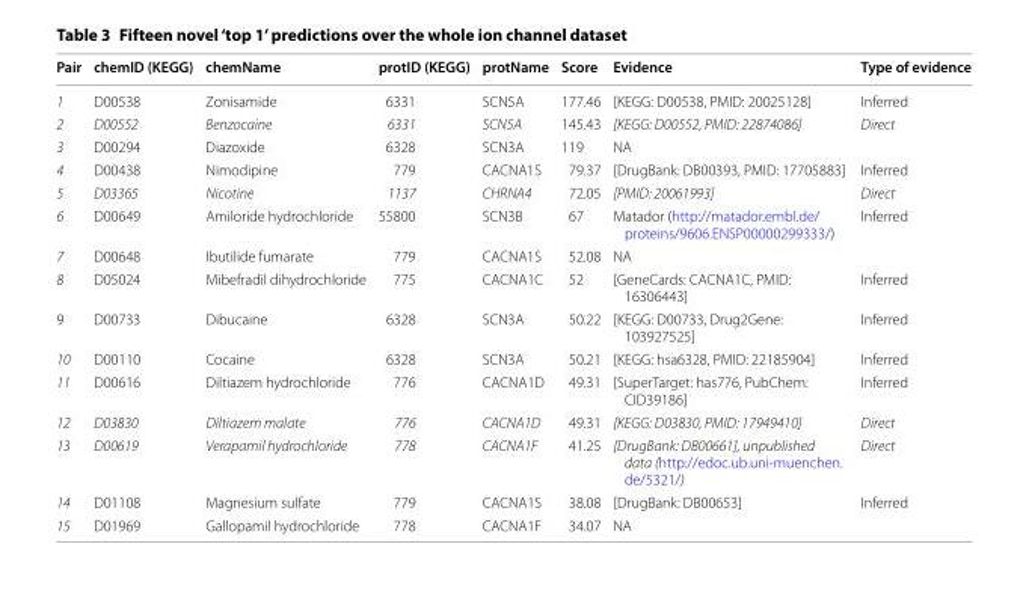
<table><thead><tr><td>Pair</td><td>chemID (KEGG)</td><td>chemName</td><td>protID (KEGG)</td><td>protName</td><td>Score</td><td>Evidence</td><td>Type of evidence</td></tr></thead><tbody><tr><td>1</td><td>D00538</td><td>Zonisamide</td><td>6331</td><td>SCN5A</td><td>177.46</td><td>[KEGG: D00538, PMID: 20025128]</td><td>Inferred</td></tr><tr><td>2</td><td>D00552</td><td>Benzocaine</td><td>6331</td><td>SCN5A</td><td>145.43</td><td>[KEGG: D00552, PMID: 22874086]</td><td>Direct</td></tr><tr><td>3</td><td>D00294</td><td>Diazoxide</td><td>6328</td><td>SCN3A</td><td>119</td><td>NA</td><td></td></tr><tr><td>4</td><td>D00438</td><td>Nimodipine</td><td>779</td><td>CACNA1S</td><td>79.37</td><td>[DrugBank: DB00393, PMID: 17705883]</td><td>Inferred</td></tr><tr><td>5</td><td>D03365</td><td>Nicotine</td><td>1137</td><td>CHRNA4</td><td>72.05</td><td>[PMID: 20061993]</td><td>Direct</td></tr><tr><td>6</td><td>D00649</td><td>Amiloride hydrochloride</td><td>55800</td><td>SCN3B</td><td>67</td><td>Matador (http://matador.embl.de/ proteins/9606.ENSP00000299333/)</td><td>Inferred</td></tr><tr><td>7</td><td>D00648</td><td>Ibutilide fumarate</td><td>779</td><td>CACNA1S</td><td>52.08</td><td>NA</td><td></td></tr><tr><td>8</td><td>D05024</td><td>Mibefradil dihydrochloride</td><td>775</td><td>CACNA1C</td><td>52</td><td>[GeneCards: CACNA1C, PMID: 16306443]</td><td>Inferred</td></tr><tr><td>9</td><td>D00733</td><td>Dibucaine</td><td>6328</td><td>SCN3A</td><td>50.22</td><td>[KEGG: D00733, Drug2Gene: 103927525]</td><td>Inferred</td></tr><tr><td>10</td><td>D00110</td><td>Cocaine</td><td>6328</td><td>SCN3A</td><td>50.21</td><td>[KEGG: hsa6328, PMID: 22185904]</td><td>Inferred</td></tr><tr><td>11</td><td>D00616</td><td>Diltiazem hydrochloride</td><td>776</td><td>CACNA1D</td><td>49.31</td><td>[SuperTarget: has776, PubChem: CID39186]</td><td>Inferred</td></tr><tr><td>12</td><td>D03830</td><td>Diltiazem malate</td><td>776</td><td>CACNA1D</td><td>49.31</td><td>[KEGG: D03830, PMID: 17949410]</td><td>Direct</td></tr><tr><td>13</td><td>D00619</td><td>Verapamil hydrochloride</td><td>778</td><td>CACNA1F</td><td>41.25</td><td>[DrugBank: DB00661], unpublished data (http://edoc.ub.uni‑muenchen. de/5321/)</td><td>Direct</td></tr><tr><td>14</td><td>D01108</td><td>Magnesium sulfate</td><td>779</td><td>CACNA1S</td><td>38.08</td><td>[DrugBank: DB00653]</td><td>Inferred</td></tr><tr><td>15</td><td>D01969</td><td>Gallopamil hydrochloride</td><td>778</td><td>CACNA1F</td><td>34.07</td><td>NA</td><td></td></tr></tbody></table>